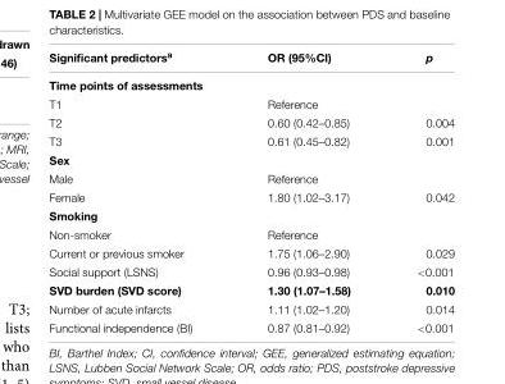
<table><thead><tr><td>Significant predictors<sup>a</sup></td><td>OR (95%CI)</td><td>p</td></tr></thead><tbody><tr><td colspan="3">Time points of assessments</td></tr><tr><td>T1</td><td>Reference</td><td></td></tr><tr><td>T2</td><td>0.60 (0.42–0.85)</td><td>0.004</td></tr><tr><td>T3</td><td>0.61 (0.45–0.82)</td><td>0.001</td></tr><tr><td colspan="3">Sex</td></tr><tr><td>Male</td><td>Reference</td><td></td></tr><tr><td>Female</td><td>1.80 (1.02–3.17)</td><td>0.042</td></tr><tr><td colspan="3">Smoking</td></tr><tr><td>Non-smoker</td><td>Reference</td><td></td></tr><tr><td>Current or previous smoker</td><td>1.75 (1.06–2.90)</td><td>0.029</td></tr><tr><td>Social support (LSNS)</td><td>0.96 (0.93–0.98)</td><td>&lt;0.001</td></tr><tr><td>SVD burden (SVD score)</td><td>1.30 (1.07–1.58)</td><td>0.010</td></tr><tr><td>Number of acute infarcts</td><td>1.11 (1.02–1.20)</td><td>0.014</td></tr><tr><td>Functional independence (BI)</td><td>0.87 (0.81–0.92)</td><td>&lt;0.001</td></tr></tbody></table>